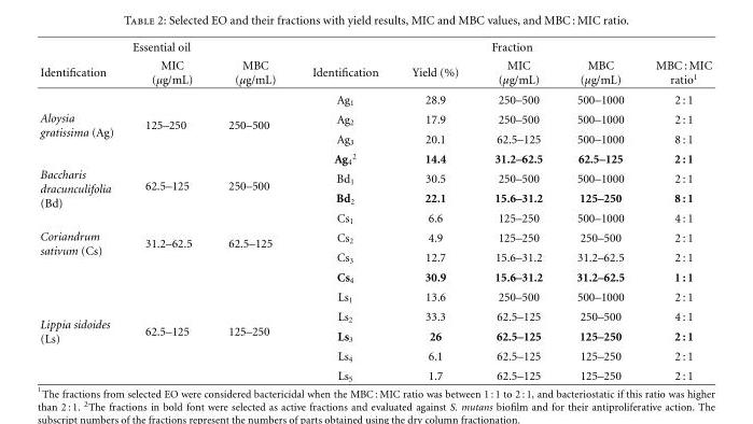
<table><thead><tr><td colspan="3">Essential oil</td><td colspan="5">Fraction</td></tr><tr><td>Identification</td><td>MIC (µg/mL)</td><td>MBC (µg/mL)</td><td>Identification</td><td>Yield (%)</td><td>MIC (µg/mL)</td><td>MBC (µg/mL)</td><td>MBC : MIC ratio<sup>1</sup></td></tr></thead><tbody><tr><td rowspan="4">Aloysia gratissima (Ag)</td><td rowspan="4">125–250</td><td rowspan="4">250–500</td><td>Ag<sub>1</sub></td><td>28.9</td><td>250–500</td><td>500–1000</td><td>2 : 1</td></tr><tr><td>Ag<sub>2</sub></td><td>17.9</td><td>250–500</td><td>500–1000</td><td>2 : 1</td></tr><tr><td>Ag<sub>3</sub></td><td>20.1</td><td>62.5–125</td><td>500–1000</td><td>8 : 1</td></tr><tr><td>Ag<sub>4</sub><sup>2</sup></td><td>14.4</td><td>31.2–62.5</td><td>62.5–125</td><td>2 : 1</td></tr><tr><td rowspan="2">Baccharis dracunculifolia (Bd)</td><td rowspan="2">62.5–125</td><td rowspan="2">250–500</td><td>Bd<sub>1</sub></td><td>30.5</td><td>250–500</td><td>500–1000</td><td>2 : 1</td></tr><tr><td>Bd<sub>2</sub></td><td>22.1</td><td>15.6–31.2</td><td>125–250</td><td>8 : 1</td></tr><tr><td rowspan="4">Coriandrum sativum (Cs)</td><td rowspan="4">31.2–62.5</td><td rowspan="4">62.5–125</td><td>Cs<sub>1</sub></td><td>6.6</td><td>125–250</td><td>500–1000</td><td>4 : 1</td></tr><tr><td>Cs<sub>2</sub></td><td>4.9</td><td>125–250</td><td>250–500</td><td>2 : 1</td></tr><tr><td>Cs<sub>3</sub></td><td>12.7</td><td>15.6–31.2</td><td>31.2–62.5</td><td>2 : 1</td></tr><tr><td>Cs<sub>4</sub></td><td>30.9</td><td>15.6–31.2</td><td>31.2–62.5</td><td>1 : 1</td></tr><tr><td rowspan="5">Lippia sidoides (Ls)</td><td rowspan="5">62.5–125</td><td rowspan="5">125–250</td><td>Ls<sub>1</sub></td><td>13.6</td><td>250–500</td><td>500–1000</td><td>2 : 1</td></tr><tr><td>Ls<sub>2</sub></td><td>33.3</td><td>62.5–125</td><td>250–500</td><td>4 : 1</td></tr><tr><td>Ls<sub>3</sub></td><td>26</td><td>62.5–125</td><td>125–250</td><td>2 : 1</td></tr><tr><td>Ls<sub>4</sub></td><td>6.1</td><td>62.5–125</td><td>125–250</td><td>2 : 1</td></tr><tr><td>Ls<sub>5</sub></td><td>1.7</td><td>62.5–125</td><td>125–250</td><td>2 : 1</td></tr></tbody></table>